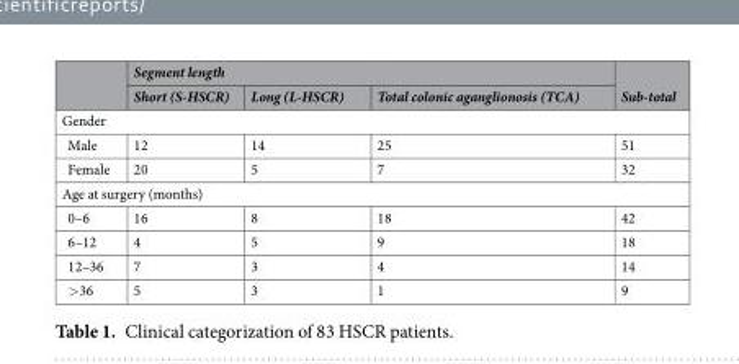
<table><thead><tr><td rowspan="2"></td><td colspan="3">Segment length</td><td rowspan="2">Sub-total</td></tr><tr><td>Short (S-HSCR)</td><td>Long (L-HSCR)</td><td>Total colonic aganglionosis (TCA)</td></tr></thead><tbody><tr><td colspan="5">Gender</td></tr><tr><td>Male</td><td>12</td><td>14</td><td>25</td><td>51</td></tr><tr><td>Female</td><td>20</td><td>5</td><td>7</td><td>32</td></tr><tr><td colspan="5">Age at surgery (months)</td></tr><tr><td>0–6</td><td>16</td><td>8</td><td>18</td><td>42</td></tr><tr><td>6–12</td><td>4</td><td>5</td><td>9</td><td>18</td></tr><tr><td>12–36</td><td>7</td><td>3</td><td>4</td><td>14</td></tr><tr><td>&gt;36</td><td>5</td><td>3</td><td>1</td><td>9</td></tr></tbody></table>